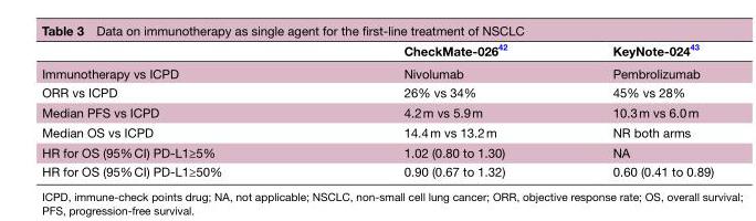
<table><thead><tr><td></td><td>CheckMate-026<sup>42</sup></td><td>KeyNote-024<sup>43</sup></td></tr></thead><tbody><tr><td>Immunotherapy vs ICPD</td><td>Nivolumab</td><td>Pembrolizumab</td></tr><tr><td>ORR vs ICPD</td><td>26% vs 34%</td><td>45% vs 28%</td></tr><tr><td>Median PFS vs ICPD</td><td>4.2 m vs 5.9 m</td><td>10.3 m vs 6.0 m</td></tr><tr><td>Median OS vs ICPD</td><td>14.4 m vs 13.2 m</td><td>NR both arms</td></tr><tr><td>HR for OS (95% CI) PD-L1≥5%</td><td>1.02 (0.80 to 1.30)</td><td>NA</td></tr><tr><td>HR for OS (95% CI) PD-L1≥50%</td><td>0.90 (0.67 to 1.32)</td><td>0.60 (0.41 to 0.89)</td></tr></tbody></table>